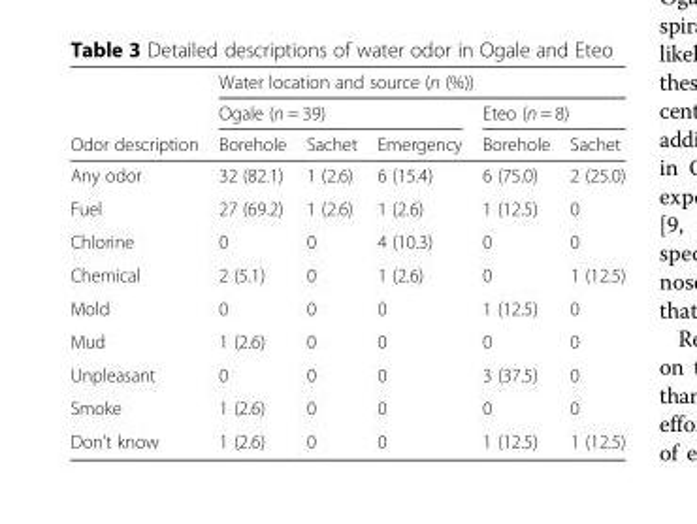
<table><thead><tr><td rowspan="3">Odor description</td><td colspan="5">Water location and source (n (%))</td></tr><tr><td colspan="3">Ogale (n = 39)</td><td colspan="2">Eteo (n = 8)</td></tr><tr><td>Borehole</td><td>Sachet</td><td>Emergency</td><td>Borehole</td><td>Sachet</td></tr></thead><tbody><tr><td>Any odor</td><td>32 (82.1)</td><td>1 (2.6)</td><td>6 (15.4)</td><td>6 (75.0)</td><td>2 (25.0)</td></tr><tr><td>Fuel</td><td>27 (69.2)</td><td>1 (2.6)</td><td>1 (2.6)</td><td>1 (12.5)</td><td>0</td></tr><tr><td>Chlorine</td><td>0</td><td>0</td><td>4 (10.3)</td><td>0</td><td>0</td></tr><tr><td>Chemical</td><td>2 (5.1)</td><td>0</td><td>1 (2.6)</td><td>0</td><td>1 (12.5)</td></tr><tr><td>Mold</td><td>0</td><td>0</td><td>0</td><td>1 (12.5)</td><td>0</td></tr><tr><td>Mud</td><td>1 (2.6)</td><td>0</td><td>0</td><td>0</td><td>0</td></tr><tr><td>Unpleasant</td><td>0</td><td>0</td><td>0</td><td>3 (37.5)</td><td>0</td></tr><tr><td>Smoke</td><td>1 (2.6)</td><td>0</td><td>0</td><td>0</td><td>0</td></tr><tr><td>Don’t know</td><td>1 (2.6)</td><td>0</td><td>0</td><td>1 (12.5)</td><td>1 (12.5)</td></tr></tbody></table>